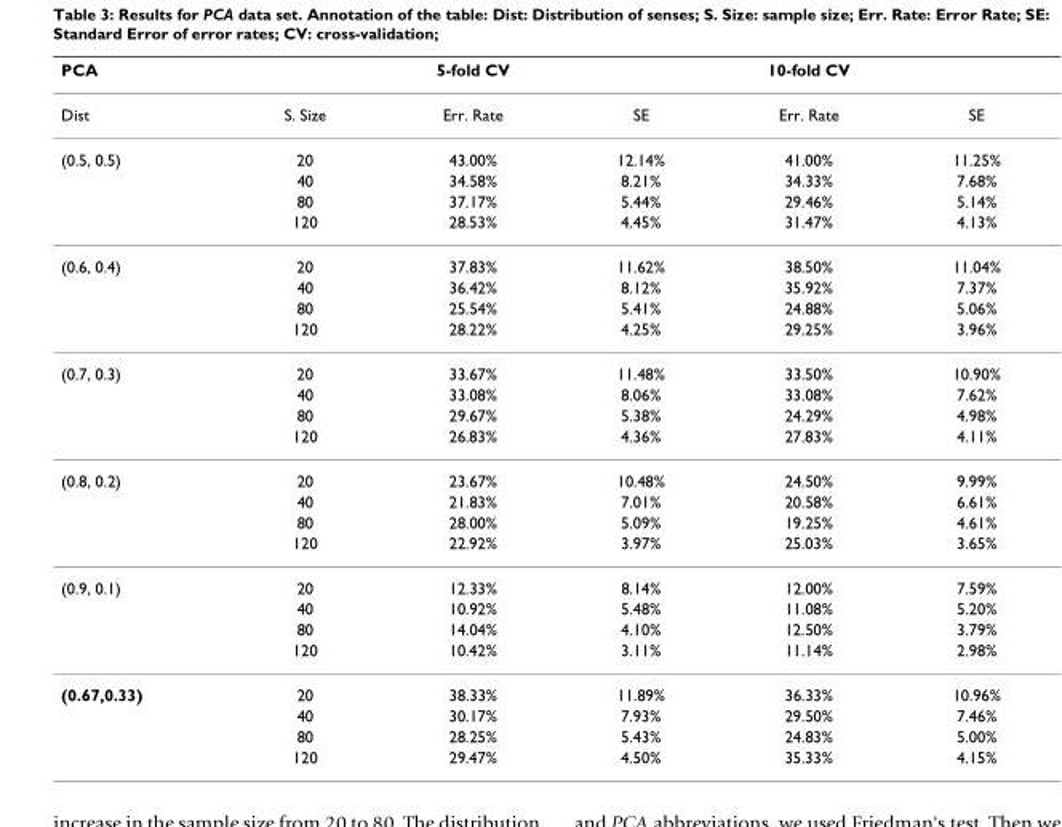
<table><thead><tr><td>PCA</td><td></td><td>5-fold CV</td><td></td><td>10-fold CV</td><td></td></tr></thead><tbody><tr><td>Dist</td><td>S. Size</td><td>Err. Rate</td><td>SE</td><td>Err. Rate</td><td>SE</td></tr><tr><td rowspan="4">(0.5, 0.5)</td><td>20</td><td>43.00%</td><td>12.14%</td><td>41.00%</td><td>11.25%</td></tr><tr><td>40</td><td>34.58%</td><td>8.21%</td><td>34.33%</td><td>7.68%</td></tr><tr><td>80</td><td>37.17%</td><td>5.44%</td><td>29.46%</td><td>5.14%</td></tr><tr><td>120</td><td>28.53%</td><td>4.45%</td><td>31.47%</td><td>4.13%</td></tr><tr><td rowspan="4">(0.6, 0.4)</td><td>20</td><td>37.83%</td><td>11.62%</td><td>38.50%</td><td>11.04%</td></tr><tr><td>40</td><td>36.42%</td><td>8.12%</td><td>35.92%</td><td>7.37%</td></tr><tr><td>80</td><td>25.54%</td><td>5.41%</td><td>24.88%</td><td>5.06%</td></tr><tr><td>120</td><td>28.22%</td><td>4.25%</td><td>29.25%</td><td>3.96%</td></tr><tr><td rowspan="4">(0.7, 0.3)</td><td>20</td><td>33.67%</td><td>11.48%</td><td>33.50%</td><td>10.90%</td></tr><tr><td>40</td><td>33.08%</td><td>8.06%</td><td>33.08%</td><td>7.62%</td></tr><tr><td>80</td><td>29.67%</td><td>5.38%</td><td>24.29%</td><td>4.98%</td></tr><tr><td>120</td><td>26.83%</td><td>4.36%</td><td>27.83%</td><td>4.11%</td></tr><tr><td rowspan="4">(0.8, 0.2)</td><td>20</td><td>23.67%</td><td>10.48%</td><td>24.50%</td><td>9.99%</td></tr><tr><td>40</td><td>21.83%</td><td>7.01%</td><td>20.58%</td><td>6.61%</td></tr><tr><td>80</td><td>28.00%</td><td>5.09%</td><td>19.25%</td><td>4.61%</td></tr><tr><td>120</td><td>22.92%</td><td>3.97%</td><td>25.03%</td><td>3.65%</td></tr><tr><td rowspan="4">(0.9, 0.1)</td><td>20</td><td>12.33%</td><td>8.14%</td><td>12.00%</td><td>7.59%</td></tr><tr><td>40</td><td>10.92%</td><td>5.48%</td><td>11.08%</td><td>5.20%</td></tr><tr><td>80</td><td>14.04%</td><td>4.10%</td><td>12.50%</td><td>3.79%</td></tr><tr><td>120</td><td>10.42%</td><td>3.11%</td><td>11.14%</td><td>2.98%</td></tr><tr><td rowspan="4">(0.67,0.33)</td><td>20</td><td>38.33%</td><td>11.89%</td><td>36.33%</td><td>10.96%</td></tr><tr><td>40</td><td>30.17%</td><td>7.93%</td><td>29.50%</td><td>7.46%</td></tr><tr><td>80</td><td>28.25%</td><td>5.43%</td><td>24.83%</td><td>5.00%</td></tr><tr><td>120</td><td>29.47%</td><td>4.50%</td><td>35.33%</td><td>4.15%</td></tr></tbody></table>